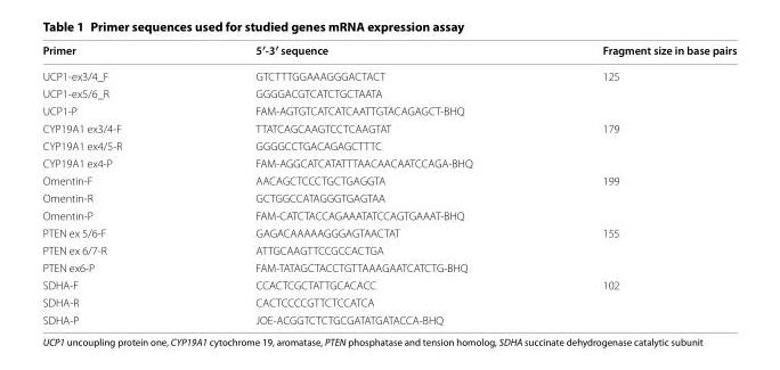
<table><thead><tr><td>Primer</td><td>5′-3′ sequence</td><td>Fragment size in base pairs</td></tr></thead><tbody><tr><td>UCP1-ex3/4_F</td><td>GTCTTTGGAAAGGGACTACT</td><td rowspan="3">125</td></tr><tr><td>UCP1-ex5/6_R</td><td>GGGGACGTCATCTGCTAATA</td></tr><tr><td>UCP1-P</td><td>FAM-AGTGTCATCATCAATTGTACAGAGCT-BHQ</td></tr><tr><td>CYP19A1 ex3/4-F</td><td>TTATCAGCAAGTCCTCAAGTAT</td><td rowspan="3">179</td></tr><tr><td>CYP19A1 ex4/5-R</td><td>GGGGCCTGACAGAGCTTTC</td></tr><tr><td>CYP19A1 ex4-P</td><td>FAM-AGGCATCATATTTAACAACAATCCAGA-BHQ</td></tr><tr><td>Omentin-F</td><td>AACAGCTCCCTGCTGAGGTA</td><td rowspan="3">199</td></tr><tr><td>Omentin-R</td><td>GCTGGCCATAGGGTGAGTAA</td></tr><tr><td>Omentin-P</td><td>FAM-CATCTACCAGAAATATCCAGTGAAAT-BHQ</td></tr><tr><td>PTEN ex 5/6-F</td><td>GAGACAAAAAGGGAGTAACTAT</td><td rowspan="3">155</td></tr><tr><td>PTEN ex 6/7-R</td><td>ATTGCAAGTTCCGCCACTGA</td></tr><tr><td>PTEN ex6-P</td><td>FAM-TATAGCTACCTGTTAAAGAATCATCTG-BHQ</td></tr><tr><td>SDHA-F</td><td>CCACTCGCTATTGCACACC</td><td rowspan="3">102</td></tr><tr><td>SDHA-R</td><td>CACTCCCCGTTCTCCATCA</td></tr><tr><td>SDHA-P</td><td>JOE-ACGGTCTCTGCGATATGATACCA-BHQ</td></tr></tbody></table>